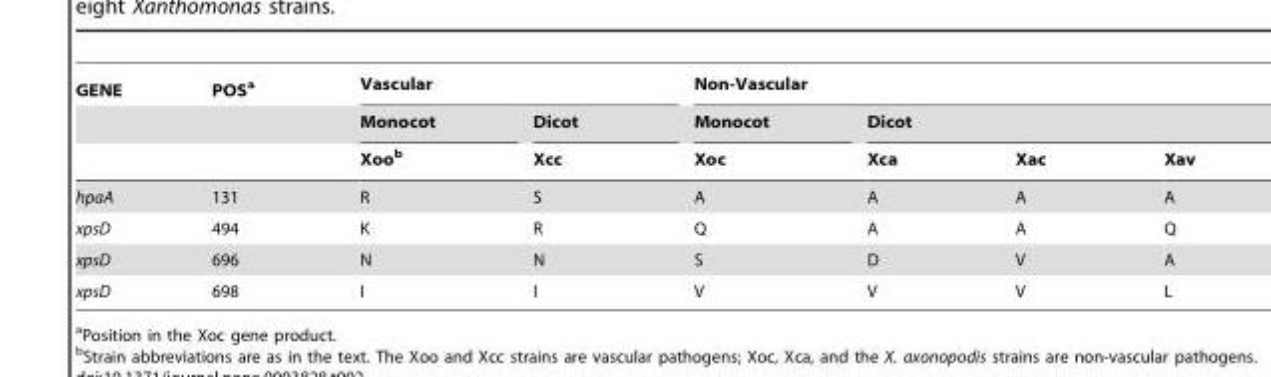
<table><thead><tr><td rowspan="3">GENE</td><td rowspan="3">POS<sup>a</sup></td><td colspan="2">Vascular</td><td colspan="4">Non-Vascular</td></tr><tr><td rowspan="2">Monocot Xoo<sup>b</sup></td><td rowspan="2">Dicot Xcc</td><td rowspan="2">Monocot Xoc</td><td colspan="3">Dicot</td></tr><tr><td>Xca</td><td>Xac</td><td>Xav</td></tr></thead><tbody><tr><td>hpaA</td><td>131</td><td>R</td><td>S</td><td>A</td><td>A</td><td>A</td><td>A</td></tr><tr><td>xpsD</td><td>494</td><td>K</td><td>R</td><td>Q</td><td>A</td><td>A</td><td>Q</td></tr><tr><td>xpsD</td><td>696</td><td>N</td><td>N</td><td>S</td><td>D</td><td>V</td><td>A</td></tr><tr><td>xpsD</td><td>698</td><td>I</td><td>I</td><td>V</td><td>V</td><td>V</td><td>L</td></tr></tbody></table>